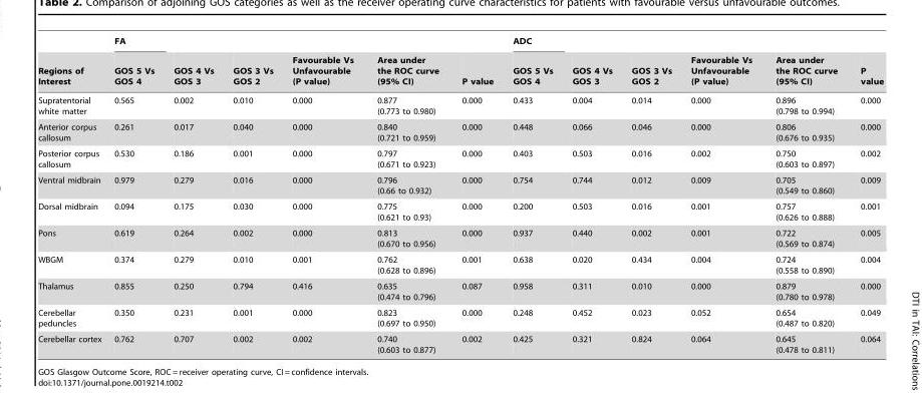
<table><thead><tr><td rowspan="2">Regions of Interest</td><td rowspan="2">FA GOS 5 Vs GOS 4</td><td rowspan="2">GOS 4 Vs GOS 3</td><td rowspan="2">GOS 3 Vs GOS 2</td><td rowspan="2">Favourable Vs Unfavourable (P value)</td><td rowspan="2">Area under the ROC curve (95% CI)</td><td rowspan="2">P value</td><td rowspan="2">ADC GOS 5 Vs GOS 4</td><td rowspan="2">GOS 4 Vs GOS 3</td><td rowspan="2">GOS 3 Vs GOS 2</td><td rowspan="2">Favourable Vs Unfavourable (P value)</td><td rowspan="2">Area under the ROC curve (95% CI)</td><td rowspan="2">P value</td></tr><tr></tr></thead><tbody><tr><td>Supratentorial white matter</td><td>0.565</td><td>0.002</td><td>0.010</td><td>0.000</td><td>0.877 (0.773 to 0.980)</td><td>0.000</td><td>0.433</td><td>0.004</td><td>0.014</td><td>0.000</td><td>0.896 (0.798 to 0.994)</td><td>0.000</td></tr><tr><td>Anterior corpus callosum</td><td>0.261</td><td>0.017</td><td>0.040</td><td>0.000</td><td>0.840 (0.721 to 0.959)</td><td>0.000</td><td>0.448</td><td>0.066</td><td>0.046</td><td>0.000</td><td>0.806 (0.676 to 0.935)</td><td>0.000</td></tr><tr><td>Posterior corpus callosum</td><td>0.530</td><td>0.186</td><td>0.001</td><td>0.000</td><td>0.797 (0.671 to 0.923)</td><td>0.000</td><td>0.403</td><td>0.503</td><td>0.016</td><td>0.002</td><td>0.750 (0.603 to 0.897)</td><td>0.002</td></tr><tr><td>Ventral midbrain</td><td>0.979</td><td>0.279</td><td>0.016</td><td>0.000</td><td>0.796 (0.66 to 0.932)</td><td>0.000</td><td>0.754</td><td>0.744</td><td>0.012</td><td>0.009</td><td>0.705 (0.549 to 0.860)</td><td>0.009</td></tr><tr><td>Dorsal midbrain</td><td>0.094</td><td>0.175</td><td>0.030</td><td>0.000</td><td>0.775 (0.621 to 0.93)</td><td>0.000</td><td>0.200</td><td>0.503</td><td>0.016</td><td>0.001</td><td>0.757 (0.626 to 0.888)</td><td>0.001</td></tr><tr><td>Pons</td><td>0.619</td><td>0.264</td><td>0.002</td><td>0.000</td><td>0.813 (0.670 to 0.956)</td><td>0.000</td><td>0.937</td><td>0.440</td><td>0.002</td><td>0.001</td><td>0.722 (0.569 to 0.874)</td><td>0.005</td></tr><tr><td>WBGM</td><td>0.374</td><td>0.279</td><td>0.010</td><td>0.001</td><td>0.762 (0.628 to 0.896)</td><td>0.001</td><td>0.638</td><td>0.020</td><td>0.434</td><td>0.004</td><td>0.724 (0.558 to 0.890)</td><td>0.004</td></tr><tr><td>Thalamus</td><td>0.855</td><td>0.250</td><td>0.794</td><td>0.416</td><td>0.635 (0.474 to 0.796)</td><td>0.087</td><td>0.958</td><td>0.311</td><td>0.010</td><td>0.000</td><td>0.879 (0.780 to 0.978)</td><td>0.000</td></tr><tr><td>Cerebellar peduncles</td><td>0.350</td><td>0.231</td><td>0.001</td><td>0.000</td><td>0.823 (0.697 to 0.950)</td><td>0.000</td><td>0.248</td><td>0.452</td><td>0.023</td><td>0.052</td><td>0.654 (0.487 to 0.820)</td><td>0.049</td></tr><tr><td>Cerebellar cortex</td><td>0.762</td><td>0.707</td><td>0.002</td><td>0.002</td><td>0.740 (0.603 to 0.877)</td><td>0.002</td><td>0.425</td><td>0.321</td><td>0.824</td><td>0.064</td><td>0.645 (0.478 to 0.811)</td><td>0.064</td></tr></tbody></table>